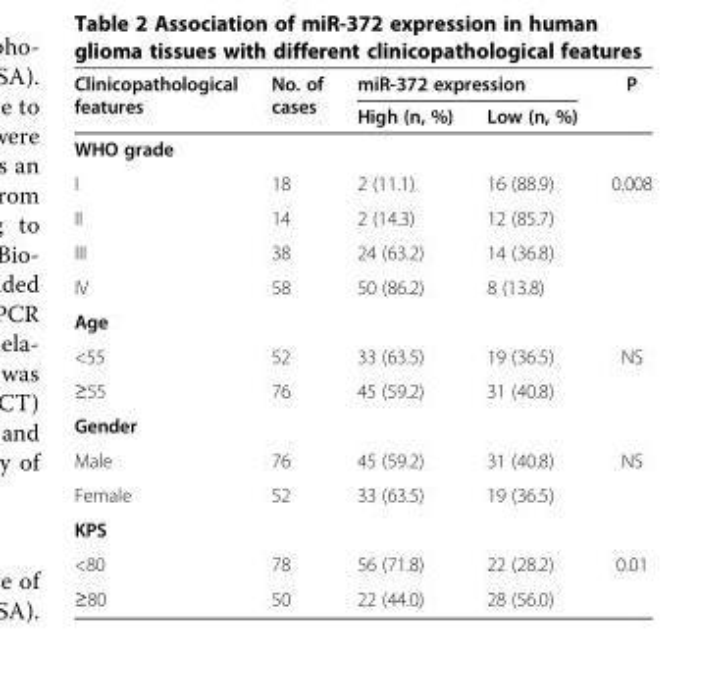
<table><thead><tr><td rowspan="2">Clinicopathological features</td><td rowspan="2">No. of cases</td><td colspan="2">miR-372 expression</td><td rowspan="2">P</td></tr><tr><td>High (n, %)</td><td>Low (n, %)</td></tr></thead><tbody><tr><td colspan="5">WHO grade</td></tr><tr><td>I</td><td>18</td><td>2 (11.1)</td><td>16 (88.9)</td><td rowspan="4">0.008</td></tr><tr><td>II</td><td>14</td><td>2 (14.3)</td><td>12 (85.7)</td></tr><tr><td>III</td><td>38</td><td>24 (63.2)</td><td>14 (36.8)</td></tr><tr><td>IV</td><td>58</td><td>50 (86.2)</td><td>8 (13.8)</td></tr><tr><td colspan="5">Age</td></tr><tr><td>&lt;55</td><td>52</td><td>33 (63.5)</td><td>19 (36.5)</td><td rowspan="2">NS</td></tr><tr><td>≥55</td><td>76</td><td>45 (59.2)</td><td>31 (40.8)</td></tr><tr><td colspan="5">Gender</td></tr><tr><td>Male</td><td>76</td><td>45 (59.2)</td><td>31 (40.8)</td><td rowspan="2">NS</td></tr><tr><td>Female</td><td>52</td><td>33 (63.5)</td><td>19 (36.5)</td></tr><tr><td colspan="5">KPS</td></tr><tr><td>&lt;80</td><td>78</td><td>56 (71.8)</td><td>22 (28.2)</td><td rowspan="2">0.01</td></tr><tr><td>≥80</td><td>50</td><td>22 (44.0)</td><td>28 (56.0)</td></tr></tbody></table>